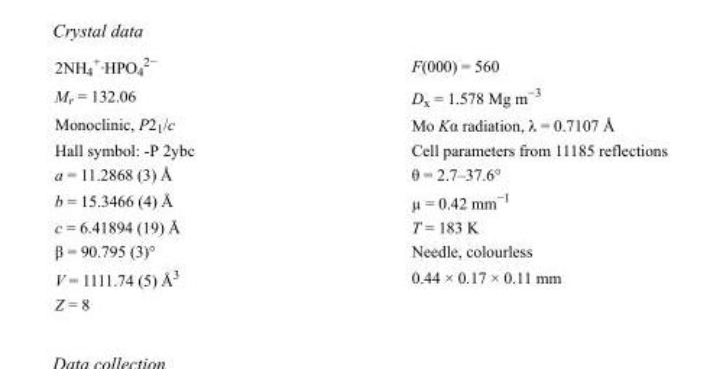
<table><tbody><tr><td>2NH<sub>4</sub> <sup>+</sup>·HPO<sub>4</sub> <sup>2−</sup></td><td>F(000) = 560</td></tr><tr><td>M<sub>r</sub> = 132.06</td><td>D<sub>x</sub> = 1.578 Mg m<sup>−3</sup></td></tr><tr><td>Monoclinic, P2<sub>1</sub>/c</td><td>Mo Kα radiation, λ = 0.7107 Å</td></tr><tr><td>Hall symbol: -P 2ybc</td><td>Cell parameters from 11185 reflections</td></tr><tr><td>a = 11.2868 (3) Å</td><td>θ = 2.7–37.6°</td></tr><tr><td>b = 15.3466 (4) Å</td><td>µ = 0.42 mm<sup>−1</sup></td></tr><tr><td>c = 6.41894 (19) Å</td><td>T = 183 K</td></tr><tr><td>β = 90.795 (3)°</td><td>Needle, colourless</td></tr><tr><td>V = 1111.74 (5) Å<sup>3</sup></td><td>0.44 × 0.17 × 0.11 mm</td></tr><tr><td>Z = 8</td><td></td></tr></tbody></table>